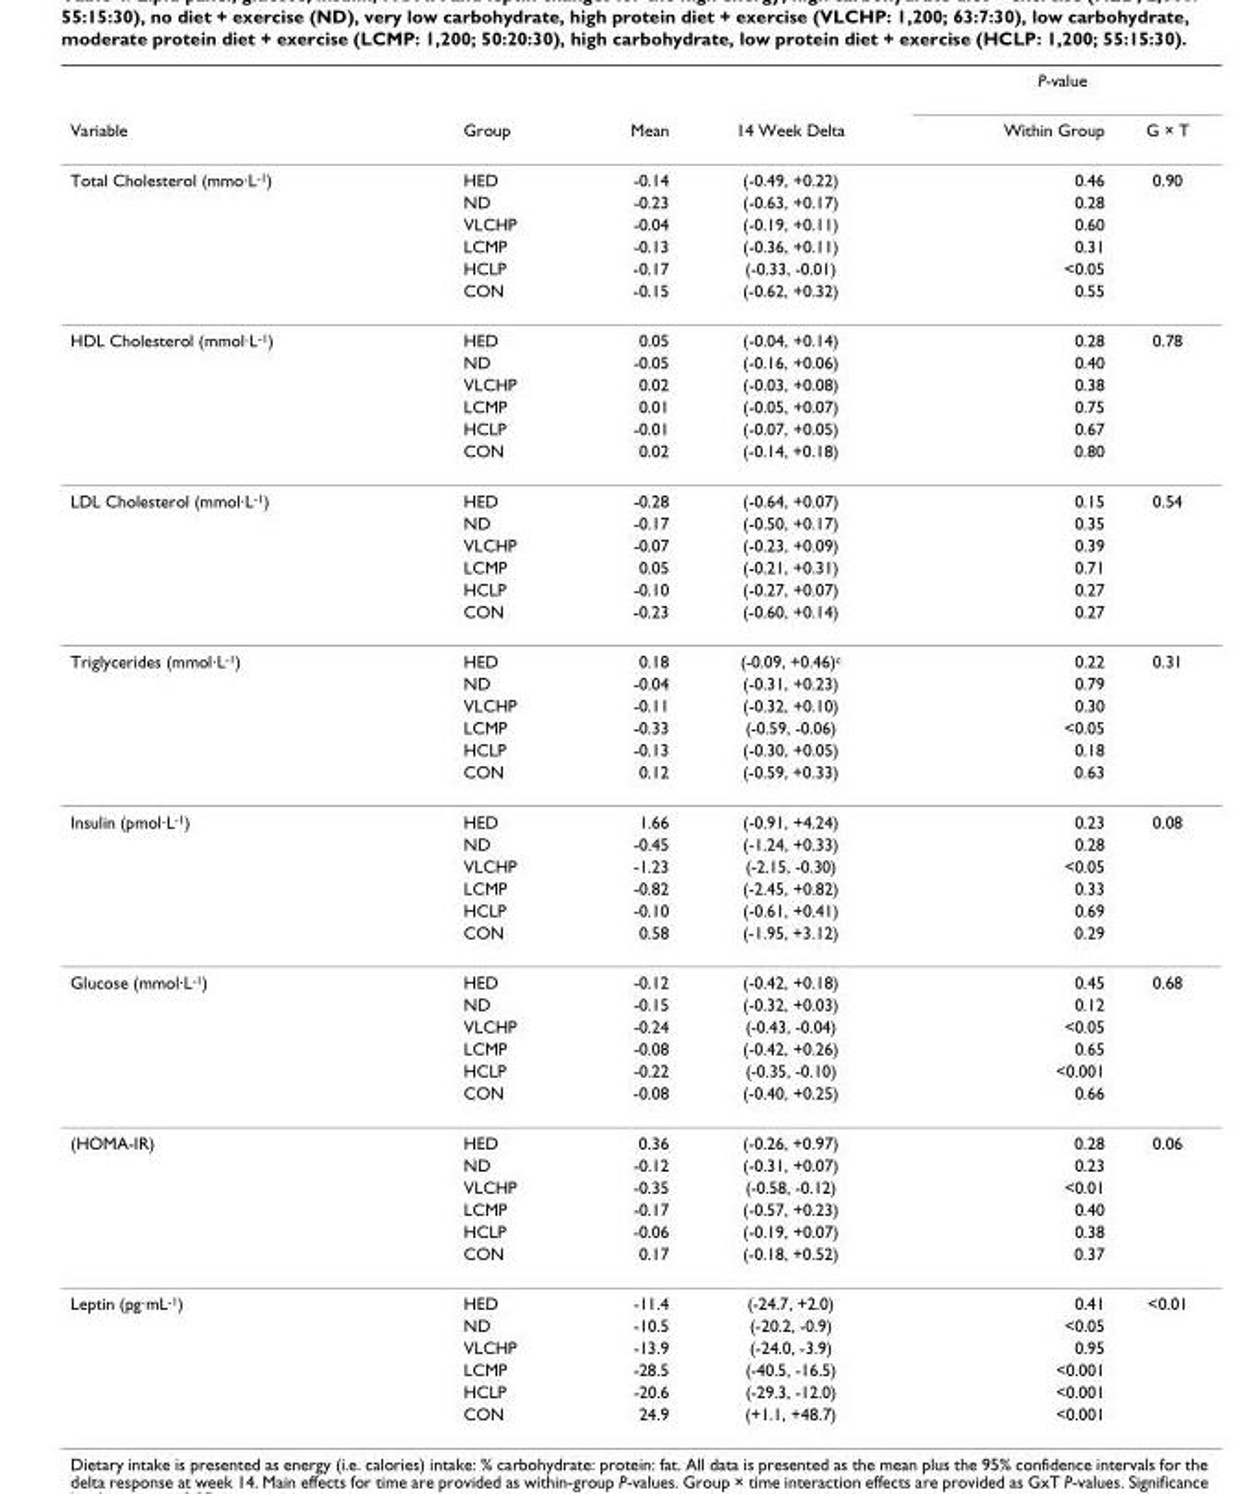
<table><thead><tr><td rowspan="2">Variable</td><td rowspan="2">Group</td><td rowspan="2">Mean</td><td rowspan="2">14 Week Delta</td><td colspan="2">P-value</td></tr><tr><td>Within Group</td><td>G × T</td></tr></thead><tbody><tr><td rowspan="6">Total Cholesterol (mmo·L<sup>-1</sup>)</td><td>HED</td><td>-0.14</td><td>(-0.49, +0.22)</td><td>0.46</td><td>0.90</td></tr><tr><td>ND</td><td>-0.23</td><td>(-0.63, +0.17)</td><td>0.28</td><td></td></tr><tr><td>VLCHP</td><td>-0.04</td><td>(-0.19, +0.11)</td><td>0.60</td><td></td></tr><tr><td>LCMP</td><td>-0.13</td><td>(-0.36, +0.11)</td><td>0.31</td><td></td></tr><tr><td>HCLP</td><td>-0.17</td><td>(-0.33, -0.01)</td><td>&lt;0.05</td><td></td></tr><tr><td>CON</td><td>-0.15</td><td>(-0.62, +0.32)</td><td>0.55</td><td></td></tr><tr><td rowspan="6">HDL Cholesterol (mmol·L<sup>-1</sup>)</td><td>HED</td><td>0.05</td><td>(-0.04, +0.14)</td><td>0.28</td><td>0.78</td></tr><tr><td>ND</td><td>-0.05</td><td>(-0.16, +0.06)</td><td>0.40</td><td></td></tr><tr><td>VLCHP</td><td>0.02</td><td>(-0.03, +0.08)</td><td>0.38</td><td></td></tr><tr><td>LCMP</td><td>0.01</td><td>(-0.05, +0.07)</td><td>0.75</td><td></td></tr><tr><td>HCLP</td><td>-0.01</td><td>(-0.07, +0.05)</td><td>0.67</td><td></td></tr><tr><td>CON</td><td>0.02</td><td>(-0.14, +0.18)</td><td>0.80</td><td></td></tr><tr><td rowspan="6">LDL Cholesterol (mmol·L<sup>-1</sup>)</td><td>HED</td><td>-0.28</td><td>(-0.64, +0.07)</td><td>0.15</td><td>0.54</td></tr><tr><td>ND</td><td>-0.17</td><td>(-0.50, +0.17)</td><td>0.35</td><td></td></tr><tr><td>VLCHP</td><td>-0.07</td><td>(-0.23, +0.09)</td><td>0.39</td><td></td></tr><tr><td>LCMP</td><td>0.05</td><td>(-0.21, +0.31)</td><td>0.71</td><td></td></tr><tr><td>HCLP</td><td>-0.10</td><td>(-0.27, +0.07)</td><td>0.27</td><td></td></tr><tr><td>CON</td><td>-0.23</td><td>(-0.60, +0.14)</td><td>0.27</td><td></td></tr><tr><td rowspan="6">Triglycerides (mmol·L<sup>-1</sup>)</td><td>HED</td><td>0.18</td><td>(-0.09, +0.46)<sup>c</sup></td><td>0.22</td><td>0.31</td></tr><tr><td>ND</td><td>-0.04</td><td>(-0.31, +0.23)</td><td>0.79</td><td></td></tr><tr><td>VLCHP</td><td>-0.11</td><td>(-0.32, +0.10)</td><td>0.30</td><td></td></tr><tr><td>LCMP</td><td>-0.33</td><td>(-0.59, -0.06)</td><td>&lt;0.05</td><td></td></tr><tr><td>HCLP</td><td>-0.13</td><td>(-0.30, +0.05)</td><td>0.18</td><td></td></tr><tr><td>CON</td><td>0.12</td><td>(-0.59, +0.33)</td><td>0.63</td><td></td></tr><tr><td rowspan="6">Insulin (pmol·L<sup>-1</sup>)</td><td>HED</td><td>1.66</td><td>(-0.91, +4.24)</td><td>0.23</td><td>0.08</td></tr><tr><td>ND</td><td>-0.45</td><td>(-1.24, +0.33)</td><td>0.28</td><td></td></tr><tr><td>VLCHP</td><td>-1.23</td><td>(-2.15, -0.30)</td><td>&lt;0.05</td><td></td></tr><tr><td>LCMP</td><td>-0.82</td><td>(-2.45, +0.82)</td><td>0.33</td><td></td></tr><tr><td>HCLP</td><td>-0.10</td><td>(-0.61, +0.41)</td><td>0.69</td><td></td></tr><tr><td>CON</td><td>0.58</td><td>(-1.95, +3.12)</td><td>0.29</td><td></td></tr><tr><td rowspan="6">Glucose (mmol·L<sup>-1</sup>)</td><td>HED</td><td>-0.12</td><td>(-0.42, +0.18)</td><td>0.45</td><td>0.68</td></tr><tr><td>ND</td><td>-0.15</td><td>(-0.32, +0.03)</td><td>0.12</td><td></td></tr><tr><td>VLCHP</td><td>-0.24</td><td>(-0.43, -0.04)</td><td>&lt;0.05</td><td></td></tr><tr><td>LCMP</td><td>-0.08</td><td>(-0.42, +0.26)</td><td>0.65</td><td></td></tr><tr><td>HCLP</td><td>-0.22</td><td>(-0.35, -0.10)</td><td>&lt;0.001</td><td></td></tr><tr><td>CON</td><td>-0.08</td><td>(-0.40, +0.25)</td><td>0.66</td><td></td></tr><tr><td rowspan="6">(HOMA-IR)</td><td>HED</td><td>0.36</td><td>(-0.26, +0.97)</td><td>0.28</td><td>0.06</td></tr><tr><td>ND</td><td>-0.12</td><td>(-0.31, +0.07)</td><td>0.23</td><td></td></tr><tr><td>VLCHP</td><td>-0.35</td><td>(-0.58, -0.12)</td><td>&lt;0.01</td><td></td></tr><tr><td>LCMP</td><td>-0.17</td><td>(-0.57, +0.23)</td><td>0.40</td><td></td></tr><tr><td>HCLP</td><td>-0.06</td><td>(-0.19, +0.07)</td><td>0.38</td><td></td></tr><tr><td>CON</td><td>0.17</td><td>(-0.18, +0.52)</td><td>0.37</td><td></td></tr><tr><td rowspan="6">Leptin (pg·mL<sup>-1</sup>)</td><td>HED</td><td>-11.4</td><td>(-24.7, +2.0)</td><td>0.41</td><td>&lt;0.01</td></tr><tr><td>ND</td><td>-10.5</td><td>(-20.2, -0.9)</td><td>&lt;0.05</td><td></td></tr><tr><td>VLCHP</td><td>-13.9</td><td>(-24.0, -3.9)</td><td>0.95</td><td></td></tr><tr><td>LCMP</td><td>-28.5</td><td>(-40.5, -16.5)</td><td>&lt;0.001</td><td></td></tr><tr><td>HCLP</td><td>-20.6</td><td>(-29.3, -12.0)</td><td>&lt;0.001</td><td></td></tr><tr><td>CON</td><td>24.9</td><td>(+1.1, +48.7)</td><td>&lt;0.001</td><td></td></tr></tbody></table>